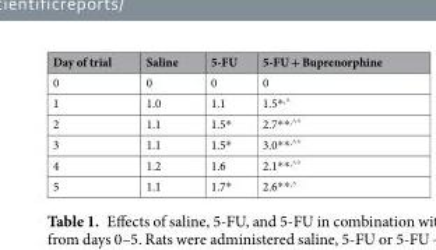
<table><thead><tr><td>Day of trial</td><td>Saline</td><td>5-FU</td><td>5-FU + Buprenorphine</td></tr></thead><tbody><tr><td>0</td><td>0</td><td>0</td><td>0</td></tr><tr><td>1</td><td>1.0</td><td>1.1</td><td>1.5*,^</td></tr><tr><td>2</td><td>1.1</td><td>1.5*</td><td>2.7**,^^</td></tr><tr><td>3</td><td>1.1</td><td>1.5*</td><td>3.0**,^^</td></tr><tr><td>4</td><td>1.2</td><td>1.6</td><td>2.1**,^^</td></tr><tr><td>5</td><td>1.1</td><td>1.7*</td><td>2.6**,^</td></tr></tbody></table>